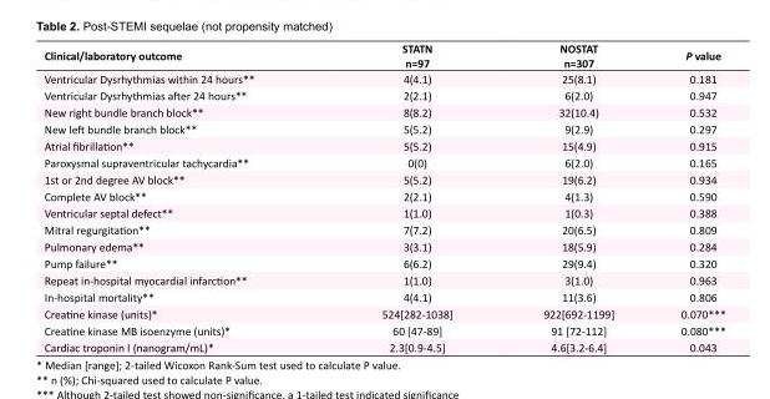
<table><tbody><tr><td>Clinical/laboratory outcome</td><td>STATN n=97</td><td>NOSTAT n=307</td><td>P value</td></tr><tr><td>Ventricular Dysrhythmias within 24 hours**</td><td>4(4.1)</td><td>25(8.1)</td><td>0.181</td></tr><tr><td>Ventricular Dysrhythmias after 24 hours**</td><td>2(2.1)</td><td>6(2.0)</td><td>0.947</td></tr><tr><td>New right bundle branch block**</td><td>8(8.2)</td><td>32(10.4)</td><td>0.532</td></tr><tr><td>New left bundle branch block**</td><td>5(5.2)</td><td>9(2.9)</td><td>0.297</td></tr><tr><td>Atrial fibrillation**</td><td>5(5.2)</td><td>15(4.9)</td><td>0.915</td></tr><tr><td>Paroxysmal supraventricular tachycardia**</td><td>0(0)</td><td>6(2.0)</td><td>0.165</td></tr><tr><td>1st or 2nd degree AV block**</td><td>5(5.2)</td><td>19(6.2)</td><td>0.934</td></tr><tr><td>Complete AV block**</td><td>2(2.1)</td><td>4(1.3)</td><td>0.590</td></tr><tr><td>Ventricular septal defect**</td><td>1(1.0)</td><td>1(0.3)</td><td>0.388</td></tr><tr><td>Mitral regurgitation**</td><td>7(7.2)</td><td>20(6.5)</td><td>0.809</td></tr><tr><td>Pulmonary edema**</td><td>3(3.1)</td><td>18(5.9)</td><td>0.284</td></tr><tr><td>Pump failure**</td><td>6(6.2)</td><td>29(9.4)</td><td>0.320</td></tr><tr><td>Repeat in-hospital myocardial infarction**</td><td>1(1.0)</td><td>3(1.0)</td><td>0.963</td></tr><tr><td>In-hospital mortality**</td><td>4(4.1)</td><td>11(3.6)</td><td>0.806</td></tr><tr><td>Creatine kinase (units)*</td><td>524[282-1038]</td><td>922[692-1199]</td><td>0.070***</td></tr><tr><td>Creatine kinase MB isoenzyme (units)*</td><td>60 [47-89]</td><td>91 [72-112]</td><td>0.080***</td></tr><tr><td>Cardiac troponin I (nanogram/mL)*</td><td>2.3[0.9-4.5]</td><td>4.6[3.2-6.4]</td><td>0.043</td></tr></tbody></table>